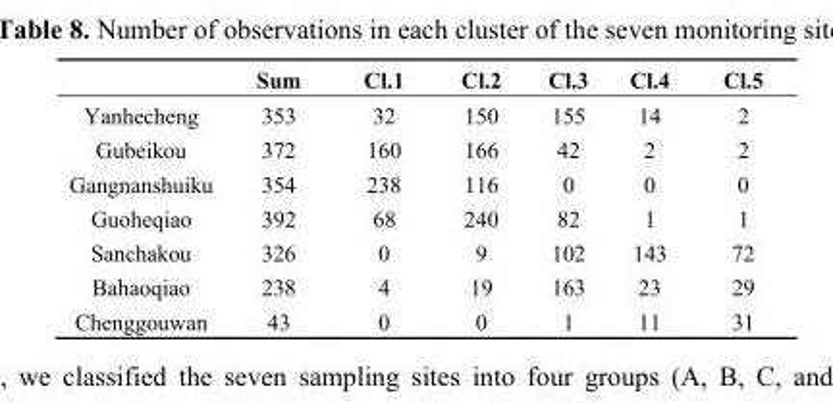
<table><thead><tr><td></td><td>Sum</td><td>Cl.1</td><td>Cl.2</td><td>Cl.3</td><td>Cl.4</td><td>Cl.5</td></tr></thead><tbody><tr><td>Yanhecheng</td><td>353</td><td>32</td><td>150</td><td>155</td><td>14</td><td>2</td></tr><tr><td>Gubeikou</td><td>372</td><td>160</td><td>166</td><td>42</td><td>2</td><td>2</td></tr><tr><td>Gangnanshuiku</td><td>354</td><td>238</td><td>116</td><td>0</td><td>0</td><td>0</td></tr><tr><td>Guoheqiao</td><td>392</td><td>68</td><td>240</td><td>82</td><td>1</td><td>1</td></tr><tr><td>Sanchakou</td><td>326</td><td>0</td><td>9</td><td>102</td><td>143</td><td>72</td></tr><tr><td>Bahaoqiao</td><td>238</td><td>4</td><td>19</td><td>163</td><td>23</td><td>29</td></tr><tr><td>Chenggouwan</td><td>43</td><td>0</td><td>0</td><td>1</td><td>11</td><td>31</td></tr></tbody></table>